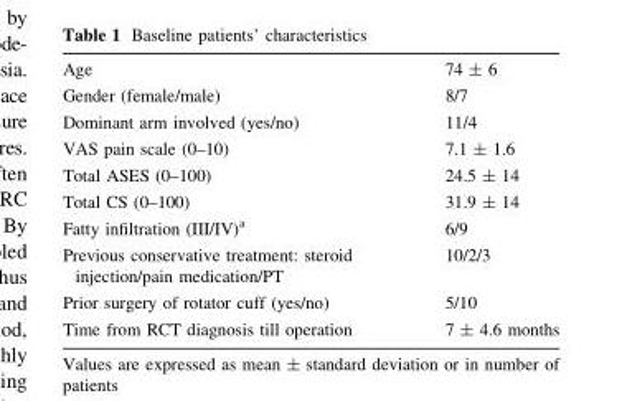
<table><tbody><tr><td>Age</td><td>74 ± 6</td></tr><tr><td>Gender (female/male)</td><td>8/7</td></tr><tr><td>Dominant arm involved (yes/no)</td><td>11/4</td></tr><tr><td>VAS pain scale (0–10)</td><td>7.1 ± 1.6</td></tr><tr><td>Total ASES (0–100)</td><td>24.5 ± 14</td></tr><tr><td>Total CS (0–100)</td><td>31.9 ± 14</td></tr><tr><td>Fatty infiltration (III/IV)<sup>a</sup></td><td>6/9</td></tr><tr><td>Previous conservative treatment: steroid injection/pain medication/PT</td><td>10/2/3</td></tr><tr><td>Prior surgery of rotator cuff (yes/no)</td><td>5/10</td></tr><tr><td>Time from RCT diagnosis till operation</td><td>7 ± 4.6 months</td></tr></tbody></table>